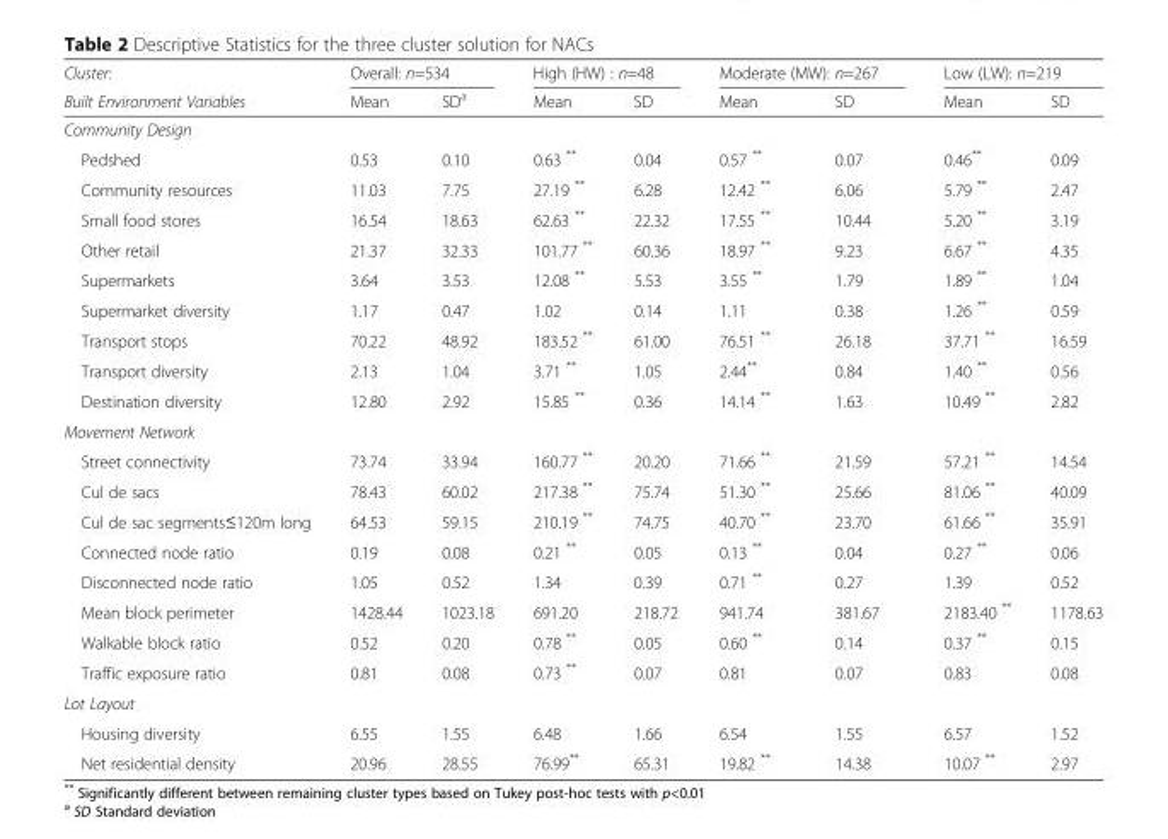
<table><thead><tr><td rowspan="2">Cluster: Built Environment Variables</td><td colspan="2">Overall: n=534</td><td colspan="2">High (HW) : n=48</td><td colspan="2">Moderate (MW): n=267</td><td colspan="2">Low (LW): n=219</td></tr><tr><td>Mean</td><td>SD<sup>a</sup></td><td>Mean</td><td>SD</td><td>Mean</td><td>SD</td><td>Mean</td><td>SD</td></tr></thead><tbody><tr><td colspan="9">Community Design</td></tr><tr><td>Pedshed</td><td>0.53</td><td>0.10</td><td>0.63 **</td><td>0.04</td><td>0.57 **</td><td>0.07</td><td>0.46**</td><td>0.09</td></tr><tr><td>Community resources</td><td>11.03</td><td>7.75</td><td>27.19 **</td><td>6.28</td><td>12.42 **</td><td>6.06</td><td>5.79 **</td><td>2.47</td></tr><tr><td>Small food stores</td><td>16.54</td><td>18.63</td><td>62.63 **</td><td>22.32</td><td>17.55 **</td><td>10.44</td><td>5.20 **</td><td>3.19</td></tr><tr><td>Other retail</td><td>21.37</td><td>32.33</td><td>101.77 **</td><td>60.36</td><td>18.97 **</td><td>9.23</td><td>6.67 **</td><td>4.35</td></tr><tr><td>Supermarkets</td><td>3.64</td><td>3.53</td><td>12.08 **</td><td>5.53</td><td>3.55 **</td><td>1.79</td><td>1.89 **</td><td>1.04</td></tr><tr><td>Supermarket diversity</td><td>1.17</td><td>0.47</td><td>1.02</td><td>0.14</td><td>1.11</td><td>0.38</td><td>1.26 **</td><td>0.59</td></tr><tr><td>Transport stops</td><td>70.22</td><td>48.92</td><td>183.52 **</td><td>61.00</td><td>76.51 **</td><td>26.18</td><td>37.71 **</td><td>16.59</td></tr><tr><td>Transport diversity</td><td>2.13</td><td>1.04</td><td>3.71 **</td><td>1.05</td><td>2.44**</td><td>0.84</td><td>1.40 **</td><td>0.56</td></tr><tr><td>Destination diversity</td><td>12.80</td><td>2.92</td><td>15.85 **</td><td>0.36</td><td>14.14 **</td><td>1.63</td><td>10.49 **</td><td>2.82</td></tr><tr><td colspan="9">Movement Network</td></tr><tr><td>Street connectivity</td><td>73.74</td><td>33.94</td><td>160.77 **</td><td>20.20</td><td>71.66 **</td><td>21.59</td><td>57.21 **</td><td>14.54</td></tr><tr><td>Cul de sacs</td><td>78.43</td><td>60.02</td><td>217.38 **</td><td>75.74</td><td>51.30 **</td><td>25.66</td><td>81.06 **</td><td>40.09</td></tr><tr><td>Cul de sac segments≤120m long</td><td>64.53</td><td>59.15</td><td>210.19 **</td><td>74.75</td><td>40.70 **</td><td>23.70</td><td>61.66 **</td><td>35.91</td></tr><tr><td>Connected node ratio</td><td>0.19</td><td>0.08</td><td>0.21 **</td><td>0.05</td><td>0.13 **</td><td>0.04</td><td>0.27 **</td><td>0.06</td></tr><tr><td>Disconnected node ratio</td><td>1.05</td><td>0.52</td><td>1.34</td><td>0.39</td><td>0.71 **</td><td>0.27</td><td>1.39</td><td>0.52</td></tr><tr><td>Mean block perimeter</td><td>1428.44</td><td>1023.18</td><td>691.20</td><td>218.72</td><td>941.74</td><td>381.67</td><td>2183.40 **</td><td>1178.63</td></tr><tr><td>Walkable block ratio</td><td>0.52</td><td>0.20</td><td>0.78 **</td><td>0.05</td><td>0.60 **</td><td>0.14</td><td>0.37 **</td><td>0.15</td></tr><tr><td>Traffic exposure ratio</td><td>0.81</td><td>0.08</td><td>0.73 **</td><td>0.07</td><td>0.81</td><td>0.07</td><td>0.83</td><td>0.08</td></tr><tr><td colspan="9">Lot Layout</td></tr><tr><td>Housing diversity</td><td>6.55</td><td>1.55</td><td>6.48</td><td>1.66</td><td>6.54</td><td>1.55</td><td>6.57</td><td>1.52</td></tr><tr><td>Net residential density</td><td>20.96</td><td>28.55</td><td>76.99**</td><td>65.31</td><td>19.82 **</td><td>14.38</td><td>10.07 **</td><td>2.97</td></tr></tbody></table>